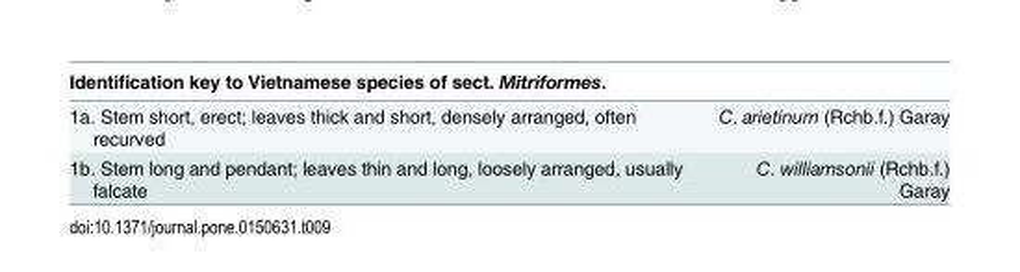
<table><thead><tr><td>Identification key to Vietnamese species of sect. Mitriformes.</td><td></td></tr></thead><tbody><tr><td>1a. Stem short, erect; leaves thick and short, densely arranged, often recurved</td><td>C. arietinum (Rchb.f.) Garay</td></tr><tr><td>1b. Stem long and pendant; leaves thin and long, loosely arranged, usually falcate</td><td>C. williamsonii (Rchb.f.) Garay</td></tr></tbody></table>